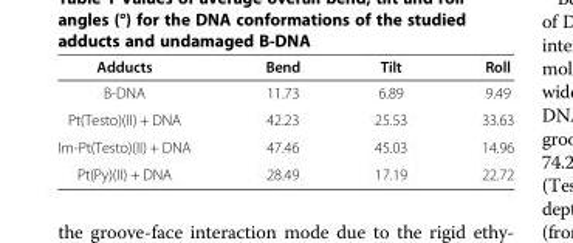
<table><thead><tr><td>Adducts</td><td>Bend</td><td>Tilt</td><td>Roll</td></tr></thead><tbody><tr><td>B-DNA</td><td>11.73</td><td>6.89</td><td>9.49</td></tr><tr><td>Pt(Testo)(II) + DNA</td><td>42.23</td><td>25.53</td><td>33.63</td></tr><tr><td>Im-Pt(Testo)(II) + DNA</td><td>47.46</td><td>45.03</td><td>14.96</td></tr><tr><td>Pt(Py)(II) + DNA</td><td>28.49</td><td>17.19</td><td>22.72</td></tr></tbody></table>